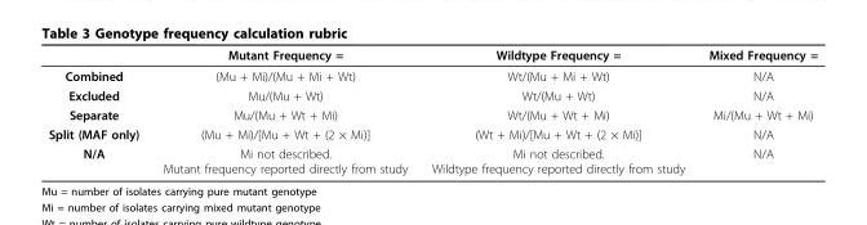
<table><thead><tr><td></td><td>Mutant Frequency =</td><td>Wildtype Frequency =</td><td>Mixed Frequency =</td></tr></thead><tbody><tr><td>Combined</td><td>(Mu + Mi)/(Mu + Mi + Wt)</td><td>Wt/(Mu + Mi + Wt)</td><td>N/A</td></tr><tr><td>Excluded</td><td>Mu/(Mu + Wt)</td><td>Wt/(Mu + Wt)</td><td>N/A</td></tr><tr><td>Separate</td><td>Mu/(Mu + Wt + Mi)</td><td>Wt/(Mu + Wt + Mi)</td><td>Mi/(Mu + Wt + Mi)</td></tr><tr><td>Split (MAF only)</td><td>(Mu + Mi)/[Mu + Wt + (2 × Mi)]</td><td>(Wt + Mi)/[Mu + Wt + (2 × Mi)]</td><td>N/A</td></tr><tr><td>N/A</td><td>Mi not described. Mutant frequency reported directly from study</td><td>Mi not described. Wildtype frequency reported directly from study</td><td>N/A</td></tr></tbody></table>